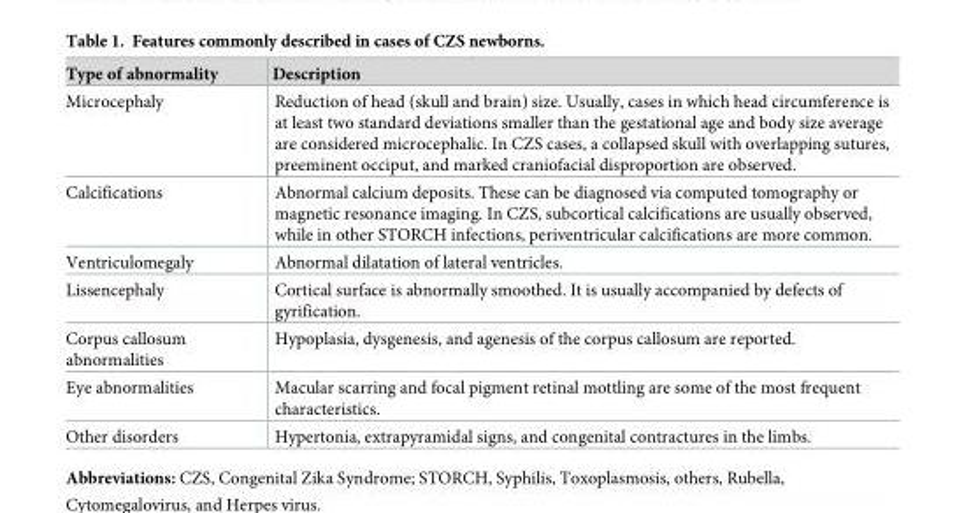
<table><thead><tr><td>Type of abnormality</td><td>Description</td></tr></thead><tbody><tr><td>Microcephaly</td><td>Reduction of head (skull and brain) size. Usually, cases in which head circumference is at least two standard deviations smaller than the gestational age and body size average are considered microcephalic. In CZS cases, a collapsed skull with overlapping sutures, preeminent occiput, and marked craniofacial disproportion are observed.</td></tr><tr><td>Calcifications</td><td>Abnormal calcium deposits. These can be diagnosed via computed tomography or magnetic resonance imaging. In CZS, subcortical calcifications are usually observed, while in other STORCH infections, periventricular calcifications are more common.</td></tr><tr><td>Ventriculomegaly</td><td>Abnormal dilatation of lateral ventricles.</td></tr><tr><td>Lissencephaly</td><td>Cortical surface is abnormally smoothed. It is usually accompanied by defects of gyrification.</td></tr><tr><td>Corpus callosum abnormalities</td><td>Hypoplasia, dysgenesis, and agenesis of the corpus callosum are reported.</td></tr><tr><td>Eye abnormalities</td><td>Macular scarring and focal pigment retinal mottling are some of the most frequent characteristics.</td></tr><tr><td>Other disorders</td><td>Hypertonia, extrapyramidal signs, and congenital contractures in the limbs.</td></tr></tbody></table>